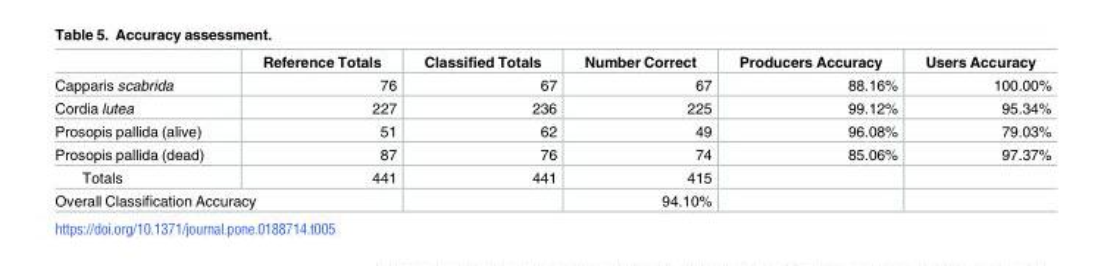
<table><thead><tr><td></td><td>Reference Totals</td><td>Classified Totals</td><td>Number Correct</td><td>Producers Accuracy</td><td>Users Accuracy</td></tr></thead><tbody><tr><td>Capparis scabrida</td><td>76</td><td>67</td><td>67</td><td>88.16%</td><td>100.00%</td></tr><tr><td>Cordia lutea</td><td>227</td><td>236</td><td>225</td><td>99.12%</td><td>95.34%</td></tr><tr><td>Prosopis pallida (alive)</td><td>51</td><td>62</td><td>49</td><td>96.08%</td><td>79.03%</td></tr><tr><td>Prosopis pallida (dead)</td><td>87</td><td>76</td><td>74</td><td>85.06%</td><td>97.37%</td></tr><tr><td>Totals</td><td>441</td><td>441</td><td>415</td><td></td><td></td></tr><tr><td colspan="2">Overall Classification Accuracy</td><td></td><td>94.10%</td><td></td><td></td></tr></tbody></table>